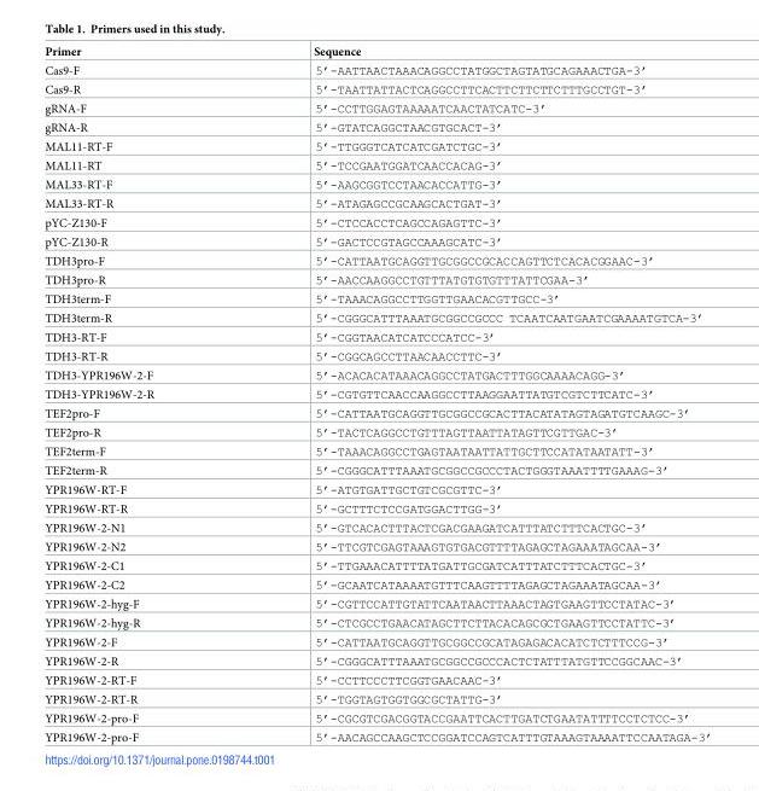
<table><thead><tr><td>Primer</td><td>Sequence</td></tr></thead><tbody><tr><td>Cas9-F</td><td>5’-AATTAACTAAACAGGCCTATGGCTAGTATGCAGAAACTGA-3’</td></tr><tr><td>Cas9-R</td><td>5’-TAATTATTACTCAGGCCTTCACTTCTTCTTCTTTGCCTGT-3’</td></tr><tr><td>gRNA-F</td><td>5’-CCTTGGAGTAAAAATCAACTATCATC-3’</td></tr><tr><td>gRNA-R</td><td>5’-GTATCAGGCTAACGTGCACT-3’</td></tr><tr><td>MAL11-RT-F</td><td>5’-TTGGGTCATCATCGATCTGC-3’</td></tr><tr><td>MAL11-RT</td><td>5’-TCCGAATGGATCAACCACAG-3’</td></tr><tr><td>MAL33-RT-F</td><td>5’-AAGCGGTCCTAACACCATTG-3’</td></tr><tr><td>MAL33-RT-R</td><td>5’-ATAGAGCCGCAAGCACTGAT-3’</td></tr><tr><td>pYC-Z130-F</td><td>5’-CTCCACCTCAGCCAGAGTTC-3’</td></tr><tr><td>pYC-Z130-R</td><td>5’-GACTCCGTAGCCAAAGCATC-3’</td></tr><tr><td>TDH3pro-F</td><td>5’-CATTAATGCAGGTTGCGGCCGCACCAGTTCTCACACGGAAC-3’</td></tr><tr><td>TDH3pro-R</td><td>5’-AACCAAGGCCTGTTTATGTGTGTTTATTCGAA-3’</td></tr><tr><td>TDH3term-F</td><td>5’-TAAACAGGCCTTGGTTGAACACGTTGCC-3’</td></tr><tr><td>TDH3term-R</td><td>5’-CGGGCATTTAAATGCGGCCGCCC TCAATCAATGAATCGAAAATGTCA-3’</td></tr><tr><td>TDH3-RT-F</td><td>5’-CGGTAACATCATCCCATCC-3’</td></tr><tr><td>TDH3-RT-R</td><td>5’-CGGCAGCCTTAACAACCTTC-3’</td></tr><tr><td>TDH3-YPR196W-2-F</td><td>5’-ACACACATAAACAGGCCTATGACTTTGGCAAAACAGG-3’</td></tr><tr><td>TDH3-YPR196W-2-R</td><td>5’-CGTGTTCAACCAAGGCCTTAAGGAATTATGTCGTCTTCATC-3’</td></tr><tr><td>TEF2pro-F</td><td>5’-CATTAATGCAGGTTGCGGCCGCACTTACATATAGTAGATGTCAAGC-3’</td></tr><tr><td>TEF2pro-R</td><td>5’-TACTCAGGCCTGTTTAGTTAATTATAGTTCGTTGAC-3’</td></tr><tr><td>TEF2term-F</td><td>5’-TAAACAGGCCTGAGTAATAATTATTGCTTCCATATAATATT-3’</td></tr><tr><td>TEF2term-R</td><td>5’-CGGGCATTTAAATGCGGCCGCCCTACTGGGTAAATTTTGAAAG-3’</td></tr><tr><td>YPR196W-RT-F</td><td>5’-ATGTGATTGCTGTCGCGTTC-3’</td></tr><tr><td>YPR196W-RT-R</td><td>5’-GCTTTCTCCGATGGACTTGG-3’</td></tr><tr><td>YPR196W-2-N1</td><td>5’-GTCACACTTTACTCGACGAAGATCATTTATCTTTCACTGC-3’</td></tr><tr><td>YPR196W-2-N2</td><td>5’-TTCGTCGAGTAAAGTGTGACGTTTTAGAGCTAGAAATAGCAA-3’</td></tr><tr><td>YPR196W-2-C1</td><td>5’-TTGAAACATTTTATGATTGCGATCATTTATCTTTCACTGC-3’</td></tr><tr><td>YPR196W-2-C2</td><td>5’-GCAATCATAAAATGTTTCAAGTTTTAGAGCTAGAAATAGCAA-3’</td></tr><tr><td>YPR196W-2-hyg-F</td><td>5’-CGTTCCATTGTATTCAATAACTTAAACTAGTGAAGTTCCTATAC-3’</td></tr><tr><td>YPR196W-2-hyg-R</td><td>5’-CTCGCCTGAACATAGCTTCTTACACAGCGCTGAAGTTCCTATTC-3’</td></tr><tr><td>YPR196W-2-F</td><td>5’-CATTAATGCAGGTTGCGGCCGCATAGAGACACATCTCTTTCCG-3’</td></tr><tr><td>YPR196W-2-R</td><td>5’-CGGGCATTTAAATGCGGCCGCCCACTCTATTTATGTTCCGGCAAC-3’</td></tr><tr><td>YPR196W-2-RT-F</td><td>5’-CCTTCCCTTCGGTGAACAAC-3’</td></tr><tr><td>YPR196W-2-RT-R</td><td>5’-TGGTAGTGGTGGCGCTATTG-3’</td></tr><tr><td>YPR196W-2-pro-F</td><td>5’-CGCGTCGACGGTACCGAATTCACTTGATCTGAATATTTTCCTCTCC-3’</td></tr><tr><td>YPR196W-2-pro-F</td><td>5’-AACAGCCAAGCTCCGGATCCAGTCATTTGTAAAGTAAAATTCCAATAGA-3’</td></tr></tbody></table>